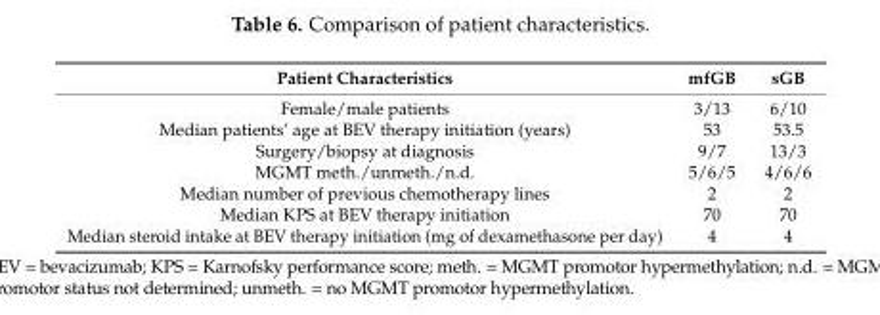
<table><thead><tr><td>Patient Characteristics</td><td>mfGB</td><td>sGB</td></tr></thead><tbody><tr><td>Female/male patients</td><td>3/13</td><td>6/10</td></tr><tr><td>Median patients’ age at BEV therapy initiation (years)</td><td>53</td><td>53.5</td></tr><tr><td>Surgery/biopsy at diagnosis</td><td>9/7</td><td>13/3</td></tr><tr><td>MGMT meth./unmeth./n.d.</td><td>5/6/5</td><td>4/6/6</td></tr><tr><td>Median number of previous chemotherapy lines</td><td>2</td><td>2</td></tr><tr><td>Median KPS at BEV therapy initiation</td><td>70</td><td>70</td></tr><tr><td>Median steroid intake at BEV therapy initiation (mg of dexamethasone per day)</td><td>4</td><td>4</td></tr></tbody></table>